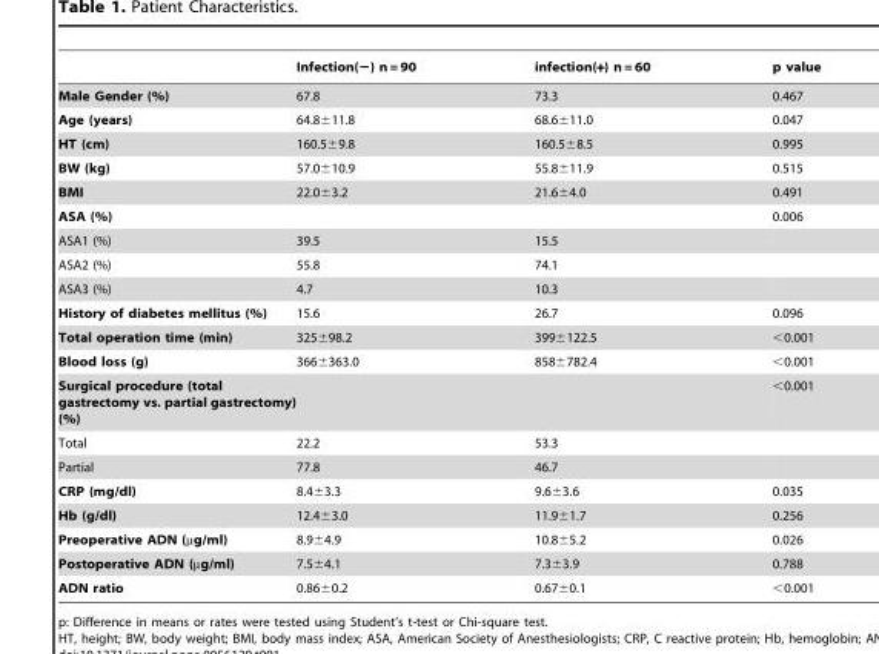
<table><thead><tr><td></td><td>Infection(−) n = 90</td><td>infection(+) n = 60</td><td>p value</td></tr></thead><tbody><tr><td>Male Gender (%)</td><td>67.8</td><td>73.3</td><td>0.467</td></tr><tr><td>Age (years)</td><td>64.8±11.8</td><td>68.6±11.0</td><td>0.047</td></tr><tr><td>HT (cm)</td><td>160.5±9.8</td><td>160.5±8.5</td><td>0.995</td></tr><tr><td>BW (kg)</td><td>57.0±10.9</td><td>55.8±11.9</td><td>0.515</td></tr><tr><td>BMI</td><td>22.0±3.2</td><td>21.6±4.0</td><td>0.491</td></tr><tr><td>ASA (%)</td><td></td><td></td><td>0.006</td></tr><tr><td>ASA1 (%)</td><td>39.5</td><td>15.5</td><td></td></tr><tr><td>ASA2 (%)</td><td>55.8</td><td>74.1</td><td></td></tr><tr><td>ASA3 (%)</td><td>4.7</td><td>10.3</td><td></td></tr><tr><td>History of diabetes mellitus (%)</td><td>15.6</td><td>26.7</td><td>0.096</td></tr><tr><td>Total operation time (min)</td><td>325±98.2</td><td>399±122.5</td><td>&lt;0.001</td></tr><tr><td>Blood loss (g)</td><td>366±363.0</td><td>858±782.4</td><td>&lt;0.001</td></tr><tr><td>Surgical procedure (total gastrectomy vs. partial gastrectomy) (%)</td><td></td><td></td><td>&lt;0.001</td></tr><tr><td>Total</td><td>22.2</td><td>53.3</td><td></td></tr><tr><td>Partial</td><td>77.8</td><td>46.7</td><td></td></tr><tr><td>CRP (mg/dl)</td><td>8.4±3.3</td><td>9.6±3.6</td><td>0.035</td></tr><tr><td>Hb (g/dl)</td><td>12.4±3.0</td><td>11.9±1.7</td><td>0.256</td></tr><tr><td>Preoperative ADN (µg/ml)</td><td>8.9±4.9</td><td>10.8±5.2</td><td>0.026</td></tr><tr><td>Postoperative ADN (µg/ml)</td><td>7.5±4.1</td><td>7.3±3.9</td><td>0.788</td></tr><tr><td>ADN ratio</td><td>0.86±0.2</td><td>0.67±0.1</td><td>&lt;0.001</td></tr></tbody></table>